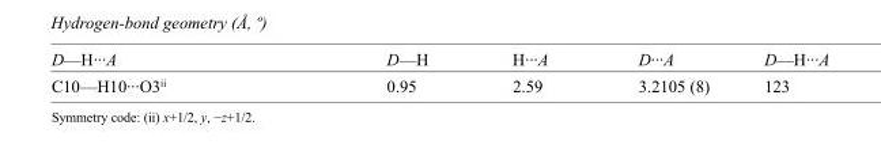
<table><tbody><tr><td>D—H···A</td><td>D—H</td><td>H···A</td><td>D···A</td><td>D—H···A</td></tr><tr><td>C10—H10···O3<sup>ii</sup></td><td>0.95</td><td>2.59</td><td>3.2105 (8)</td><td>123</td></tr></tbody></table>